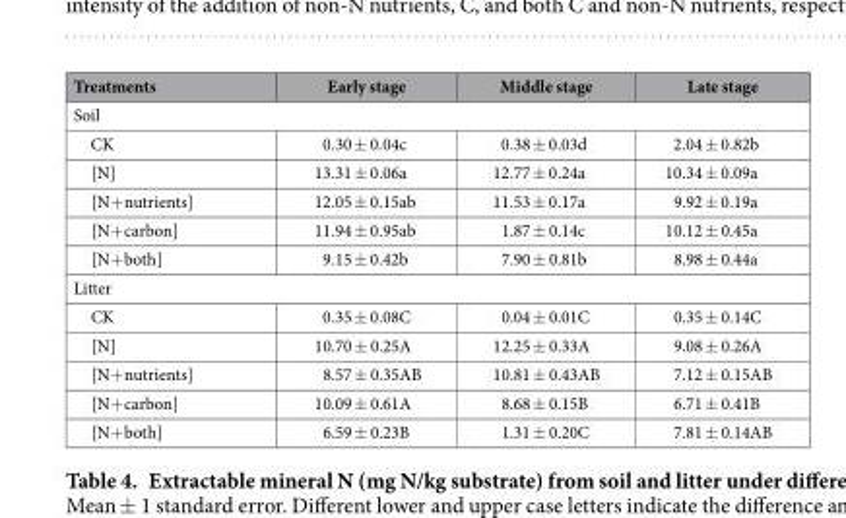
<table><thead><tr><td>Treatments</td><td>Early stage</td><td>Middle stage</td><td>Late stage</td></tr></thead><tbody><tr><td colspan="4">Soil</td></tr><tr><td>CK</td><td>0.30 ± 0.04c</td><td>0.38 ± 0.03d</td><td>2.04 ± 0.82b</td></tr><tr><td>[N]</td><td>13.31 ± 0.06a</td><td>12.77 ± 0.24a</td><td>10.34 ± 0.09a</td></tr><tr><td>[N+ nutrients]</td><td>12.05 ± 0.15ab</td><td>11.53 ± 0.17a</td><td>9.92 ± 0.19a</td></tr><tr><td>[N+ carbon]</td><td>11.94 ± 0.95ab</td><td>1.87 ± 0.14c</td><td>10.12 ± 0.45a</td></tr><tr><td>[N+ both]</td><td>9.15 ± 0.42b</td><td>7.90 ± 0.81b</td><td>8.98 ± 0.44a</td></tr><tr><td colspan="4">Litter</td></tr><tr><td>CK</td><td>0.35 ± 0.08C</td><td>0.04 ± 0.01C</td><td>0.35 ± 0.14C</td></tr><tr><td>[N]</td><td>10.70 ± 0.25A</td><td>12.25 ± 0.33A</td><td>9.08 ± 0.26A</td></tr><tr><td>[N+ nutrients]</td><td>8.57 ± 0.35AB</td><td>10.81 ± 0.43AB</td><td>7.12 ± 0.15AB</td></tr><tr><td>[N+ carbon]</td><td>10.09 ± 0.61A</td><td>8.68 ± 0.15B</td><td>6.71 ± 0.41B</td></tr><tr><td>[N+ both]</td><td>6.59 ± 0.23B</td><td>1.31 ± 0.20C</td><td>7.81 ± 0.14AB</td></tr></tbody></table>